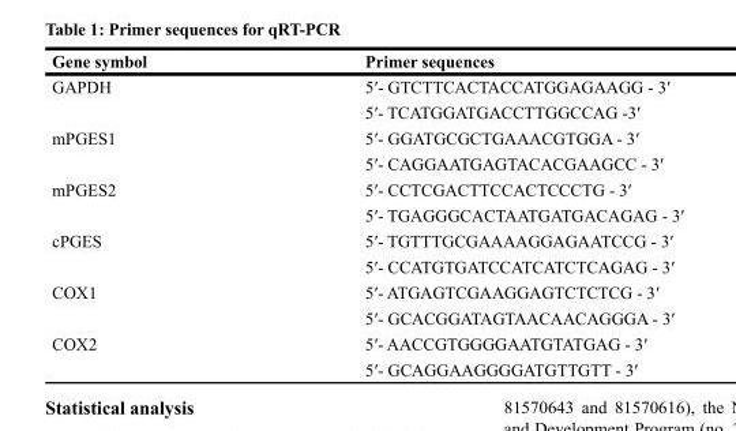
<table><thead><tr><td>Gene symbol</td><td>Primer sequences</td></tr></thead><tbody><tr><td rowspan="2">GAPDH</td><td>5′- GTCTTCACTACCATGGAGAAGG - 3′</td></tr><tr><td>5′- TCATGGATGACCTTGGCCAG -3′</td></tr><tr><td rowspan="2">mPGES1</td><td>5′- GGATGCGCTGAAACGTGGA - 3′</td></tr><tr><td>5′- CAGGAATGAGTACACGAAGCC - 3′</td></tr><tr><td rowspan="2">mPGES2</td><td>5′- CCTCGACTTCCACTCCCTG - 3′</td></tr><tr><td>5′- TGAGGGCACTAATGATGACAGAG - 3′</td></tr><tr><td rowspan="2">cPGES</td><td>5′- TGTTTGCGAAAAGGAGAATCCG - 3′</td></tr><tr><td>5′- CCATGTGATCCATCATCTCAGAG - 3′</td></tr><tr><td rowspan="2">COX1</td><td>5′- ATGAGTCGAAGGAGTCTCTCG - 3′</td></tr><tr><td>5′- GCACGGATAGTAACAACAGGGA - 3′</td></tr><tr><td rowspan="2">COX2</td><td>5′- AACCGTGGGGAATGTATGAG - 3′</td></tr><tr><td>5′- GCAGGAAGGGGATGTTGTT - 3′</td></tr></tbody></table>